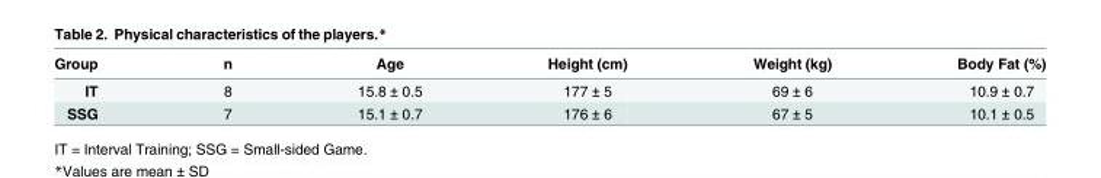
<table><thead><tr><td>Group</td><td>n</td><td>Age</td><td>Height (cm)</td><td>Weight (kg)</td><td>Body Fat (%)</td></tr></thead><tbody><tr><td>IT</td><td>8</td><td>15.8 ± 0.5</td><td>177 ± 5</td><td>69 ± 6</td><td>10.9 ± 0.7</td></tr><tr><td>SSG</td><td>7</td><td>15.1 ± 0.7</td><td>176 ± 6</td><td>67 ± 5</td><td>10.1 ± 0.5</td></tr></tbody></table>